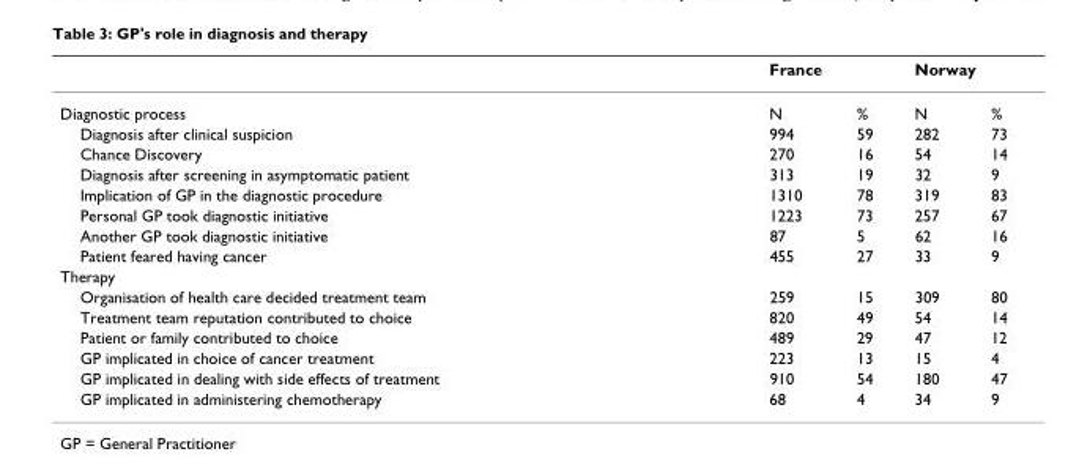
<table><thead><tr><td rowspan="2">Diagnostic process</td><td colspan="2">France</td><td colspan="2">Norway</td></tr><tr><td>N</td><td>%</td><td>N</td><td>%</td></tr></thead><tbody><tr><td>Diagnosis after clinical suspicion</td><td>994</td><td>59</td><td>282</td><td>73</td></tr><tr><td>Chance Discovery</td><td>270</td><td>16</td><td>54</td><td>14</td></tr><tr><td>Diagnosis after screening in asymptomatic patient</td><td>313</td><td>19</td><td>32</td><td>9</td></tr><tr><td>Implication of GP in the diagnostic procedure</td><td>1310</td><td>78</td><td>319</td><td>83</td></tr><tr><td>Personal GP took diagnostic initiative</td><td>1223</td><td>73</td><td>257</td><td>67</td></tr><tr><td>Another GP took diagnostic initiative</td><td>87</td><td>5</td><td>62</td><td>16</td></tr><tr><td>Patient feared having cancer</td><td>455</td><td>27</td><td>33</td><td>9</td></tr><tr><td colspan="5">Therapy</td></tr><tr><td>Organisation of health care decided treatment team</td><td>259</td><td>15</td><td>309</td><td>80</td></tr><tr><td>Treatment team reputation contributed to choice</td><td>820</td><td>49</td><td>54</td><td>14</td></tr><tr><td>Patient or family contributed to choice</td><td>489</td><td>29</td><td>47</td><td>12</td></tr><tr><td>GP implicated in choice of cancer treatment</td><td>223</td><td>13</td><td>15</td><td>4</td></tr><tr><td>GP implicated in dealing with side effects of treatment</td><td>910</td><td>54</td><td>180</td><td>47</td></tr><tr><td>GP implicated in administering chemotherapy</td><td>68</td><td>4</td><td>34</td><td>9</td></tr></tbody></table>